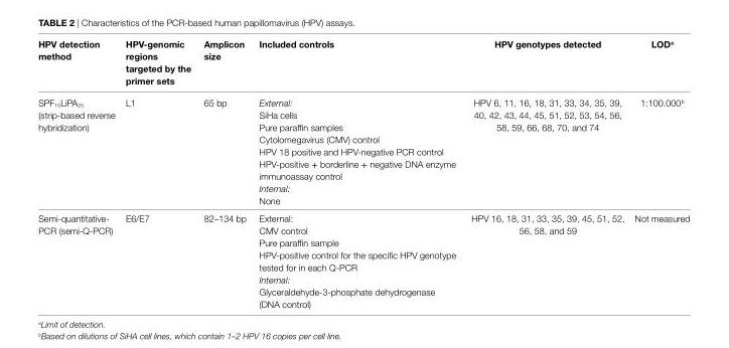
<table><thead><tr><td>hPV detection method</td><td>hPV-genomic regions targeted by the primer sets</td><td>amplicon size</td><td>included controls</td><td>hPV genotypes detected</td><td>lOD<sup>a</sup></td></tr></thead><tbody><tr><td rowspan="8">SPF<sub>10</sub>LiPA<sub>25</sub> (strip-based reverse hybridization)</td><td rowspan="8">L1</td><td rowspan="8">65 bp</td><td>External:</td><td rowspan="8">HPV 6, 11, 16, 18, 31, 33, 34, 35, 39, 40, 42, 43, 44, 45, 51, 52, 53, 54, 56, 58, 59, 66, 68, 70, and 74</td><td rowspan="8">1:100.000<sup>b</sup></td></tr><tr><td>SiHa cells</td></tr><tr><td>Pure paraffin samples</td></tr><tr><td>Cytolomegavirus (CMV) control</td></tr><tr><td>HPV 18 positive and HPV-negative PCR control</td></tr><tr><td>HPV-positive + borderline + negative DNA enzyme immunoassay control</td></tr><tr><td>Internal:</td></tr><tr><td>None</td></tr><tr><td rowspan="6">Semi-quantitative- PCR (semi-Q-PCR)</td><td rowspan="6">E6/E7</td><td rowspan="6">82–134 bp</td><td>External:</td><td rowspan="6">HPV 16, 18, 31, 33, 35, 39, 45, 51, 52, 56, 58, and 59</td><td rowspan="6">Not measured</td></tr><tr><td>CMV control</td></tr><tr><td>Pure paraffin sample</td></tr><tr><td>HPV-positive control for the specific HPV genotype tested for in each Q-PCR</td></tr><tr><td>Internal:</td></tr><tr><td>Glyceraldehyde-3-phosphate dehydrogenase (DNA control)</td></tr></tbody></table>